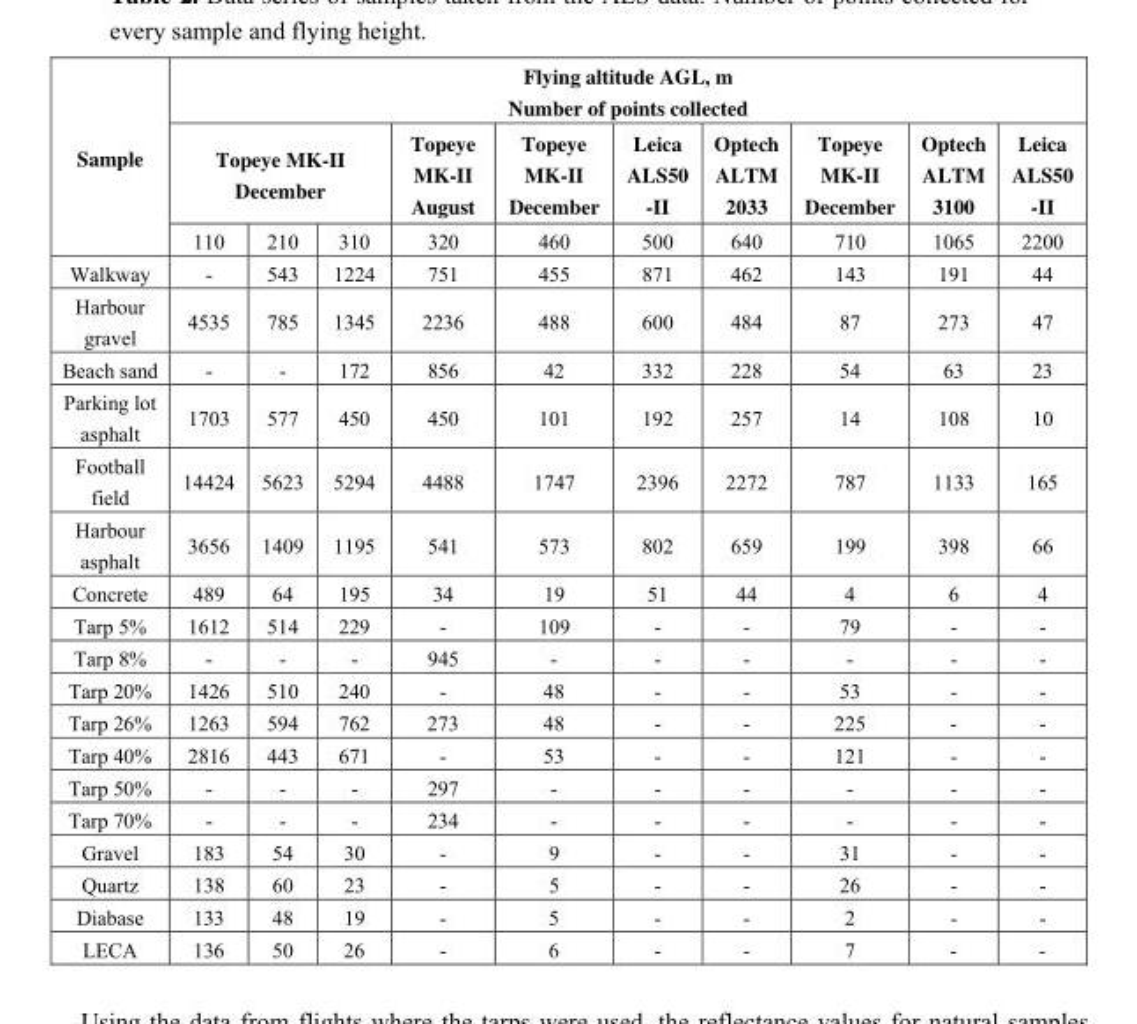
<table><thead><tr><td rowspan="3">Sample</td><td colspan="10">Flying altitude AGL, m Number of points collected</td></tr><tr><td colspan="3">Topeye MK-II December</td><td rowspan="2">Topeye MK-II August 320</td><td rowspan="2">Topeye MK-II December 460</td><td rowspan="2">Leica ALS50 -II 500</td><td rowspan="2">Optech ALTM 2033 640</td><td rowspan="2">Topeye MK-II December 710</td><td rowspan="2">Optech ALTM 3100 1065</td><td rowspan="2">Leica ALS50 -II 2200</td></tr><tr><td>110</td><td>210</td><td>310</td></tr></thead><tbody><tr><td>Walkway</td><td>-</td><td>543</td><td>1224</td><td>751</td><td>455</td><td>871</td><td>462</td><td>143</td><td>191</td><td>44</td></tr><tr><td>Harbour gravel</td><td>4535</td><td>785</td><td>1345</td><td>2236</td><td>488</td><td>600</td><td>484</td><td>87</td><td>273</td><td>47</td></tr><tr><td>Beach sand</td><td>-</td><td>-</td><td>172</td><td>856</td><td>42</td><td>332</td><td>228</td><td>54</td><td>63</td><td>23</td></tr><tr><td>Parking lot asphalt</td><td>1703</td><td>577</td><td>450</td><td>450</td><td>101</td><td>192</td><td>257</td><td>14</td><td>108</td><td>10</td></tr><tr><td>Football field</td><td>14424</td><td>5623</td><td>5294</td><td>4488</td><td>1747</td><td>2396</td><td>2272</td><td>787</td><td>1133</td><td>165</td></tr><tr><td>Harbour asphalt</td><td>3656</td><td>1409</td><td>1195</td><td>541</td><td>573</td><td>802</td><td>659</td><td>199</td><td>398</td><td>66</td></tr><tr><td>Concrete</td><td>489</td><td>64</td><td>195</td><td>34</td><td>19</td><td>51</td><td>44</td><td>4</td><td>6</td><td>4</td></tr><tr><td>Tarp 5%</td><td>1612</td><td>514</td><td>229</td><td>-</td><td>109</td><td>-</td><td>-</td><td>79</td><td>-</td><td>-</td></tr><tr><td>Tarp 8%</td><td>-</td><td>-</td><td>-</td><td>945</td><td>-</td><td>-</td><td>-</td><td>-</td><td>-</td><td>-</td></tr><tr><td>Tarp 20%</td><td>1426</td><td>510</td><td>240</td><td>-</td><td>48</td><td>-</td><td>-</td><td>53</td><td>-</td><td>-</td></tr><tr><td>Tarp 26%</td><td>1263</td><td>594</td><td>762</td><td>273</td><td>48</td><td>-</td><td>-</td><td>225</td><td>-</td><td>-</td></tr><tr><td>Tarp 40%</td><td>2816</td><td>443</td><td>671</td><td>-</td><td>53</td><td>-</td><td>-</td><td>121</td><td>-</td><td>-</td></tr><tr><td>Tarp 50%</td><td>-</td><td>-</td><td>-</td><td>297</td><td>-</td><td>-</td><td>-</td><td>-</td><td>-</td><td>-</td></tr><tr><td>Tarp 70%</td><td>-</td><td>-</td><td>-</td><td>234</td><td>-</td><td>-</td><td>-</td><td>-</td><td>-</td><td>-</td></tr><tr><td>Gravel</td><td>183</td><td>54</td><td>30</td><td>-</td><td>9</td><td>-</td><td>-</td><td>31</td><td>-</td><td>-</td></tr><tr><td>Quartz</td><td>138</td><td>60</td><td>23</td><td>-</td><td>5</td><td>-</td><td>-</td><td>26</td><td>-</td><td>-</td></tr><tr><td>Diabase</td><td>133</td><td>48</td><td>19</td><td>-</td><td>5</td><td>-</td><td>-</td><td>2</td><td>-</td><td>-</td></tr><tr><td>LECA</td><td>136</td><td>50</td><td>26</td><td>-</td><td>6</td><td>-</td><td>-</td><td>7</td><td>-</td><td>-</td></tr></tbody></table>